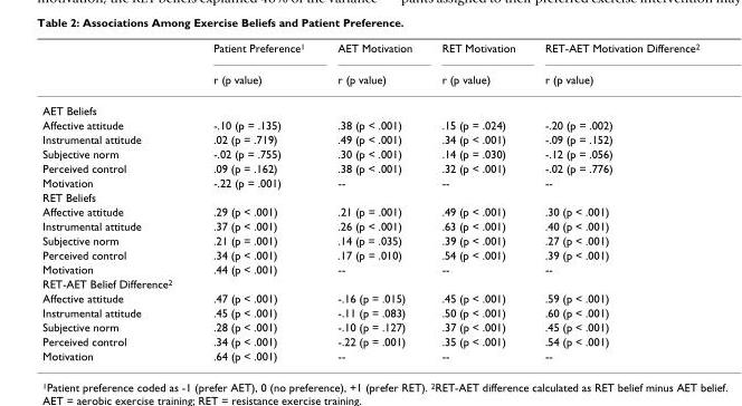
<table><thead><tr><td rowspan="2"></td><td rowspan="2">Patient Preference<sup>1</sup> r (p value)</td><td rowspan="2">AET Motivation r (p value)</td><td rowspan="2">RET Motivation r (p value)</td><td rowspan="2">RET-AET Motivation Difference<sup>2</sup> r (p value)</td></tr><tr></tr></thead><tbody><tr><td colspan="5">AET Beliefs</td></tr><tr><td>Affective attitude</td><td>-.10 (p = .135)</td><td>.38 (p &lt; .001)</td><td>.15 (p = .024)</td><td>-.20 (p = .002)</td></tr><tr><td>Instrumental attitude</td><td>.02 (p = .719)</td><td>.49 (p &lt; .001)</td><td>.34 (p &lt; .001)</td><td>-.09 (p = .152)</td></tr><tr><td>Subjective norm</td><td>-.02 (p = .755)</td><td>.30 (p &lt; .001)</td><td>.14 (p = .030)</td><td>-.12 (p = .056)</td></tr><tr><td>Perceived control</td><td>.09 (p = .162)</td><td>.38 (p &lt; .001)</td><td>.32 (p &lt; .001)</td><td>-.02 (p = .776)</td></tr><tr><td>Motivation</td><td>-.22 (p = .001)</td><td>--</td><td>--</td><td>--</td></tr><tr><td colspan="5">RET Beliefs</td></tr><tr><td>Affective attitude</td><td>.29 (p &lt; .001)</td><td>.21 (p = .001)</td><td>.49 (p &lt; .001)</td><td>.30 (p &lt; .001)</td></tr><tr><td>Instrumental attitude</td><td>.37 (p &lt; .001)</td><td>.26 (p &lt; .001)</td><td>.63 (p &lt; .001)</td><td>.40 (p &lt; .001)</td></tr><tr><td>Subjective norm</td><td>.21 (p = .001)</td><td>.14 (p = .035)</td><td>.39 (p &lt; .001)</td><td>.27 (p &lt; .001)</td></tr><tr><td>Perceived control</td><td>.34 (p &lt; .001)</td><td>.17 (p = .010)</td><td>.54 (p &lt; .001)</td><td>.39 (p &lt; .001)</td></tr><tr><td>Motivation</td><td>.44 (p &lt; .001)</td><td>--</td><td>--</td><td>--</td></tr><tr><td colspan="5">RET-AET Belief Difference<sup>2</sup></td></tr><tr><td>Affective attitude</td><td>.47 (p &lt; .001)</td><td>-.16 (p = .015)</td><td>.45 (p &lt; .001)</td><td>.59 (p &lt; .001)</td></tr><tr><td>Instrumental attitude</td><td>.45 (p &lt; .001)</td><td>-.11 (p = .083)</td><td>.50 (p &lt; .001)</td><td>.60 (p &lt; .001)</td></tr><tr><td>Subjective norm</td><td>.28 (p &lt; .001)</td><td>-.10 (p = .127)</td><td>.37 (p &lt; .001)</td><td>.45 (p &lt; .001)</td></tr><tr><td>Perceived control</td><td>.34 (p &lt; .001)</td><td>-.22 (p = .001)</td><td>.35 (p &lt; .001)</td><td>.54 (p &lt; .001)</td></tr><tr><td>Motivation</td><td>.64 (p &lt; .001)</td><td>--</td><td>--</td><td>--</td></tr></tbody></table>